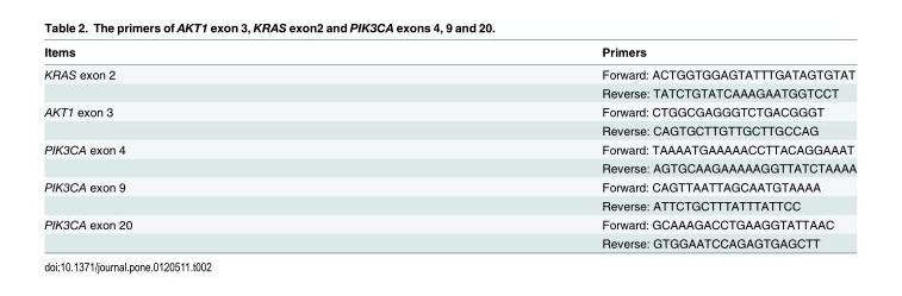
<table><thead><tr><td>Items</td><td>Primers</td></tr></thead><tbody><tr><td rowspan="2">KRAS exon 2</td><td>Forward: ACTGGTGGAGTATTTGATAGTGTAT</td></tr><tr><td>Reverse: TATCTGTATCAAAGAATGGTCCT</td></tr><tr><td rowspan="2">AKT1 exon 3</td><td>Forward: CTGGCGAGGGTCTGACGGGT</td></tr><tr><td>Reverse: CAGTGCTTGTTGCTTGCCAG</td></tr><tr><td rowspan="2">PIK3CA exon 4</td><td>Forward: TAAAATGAAAAACCTTACAGGAAAT</td></tr><tr><td>Reverse: AGTGCAAGAAAAAGGTTATCTAAAA</td></tr><tr><td rowspan="2">PIK3CA exon 9</td><td>Forward: CAGTTAATTAGCAATGTAAAA</td></tr><tr><td>Reverse: ATTCTGCTTTATTTATTCC</td></tr><tr><td rowspan="2">PIK3CA exon 20</td><td>Forward: GCAAAGACCTGAAGGTATTAAC</td></tr><tr><td>Reverse: GTGGAATCCAGAGTGAGCTT</td></tr></tbody></table>